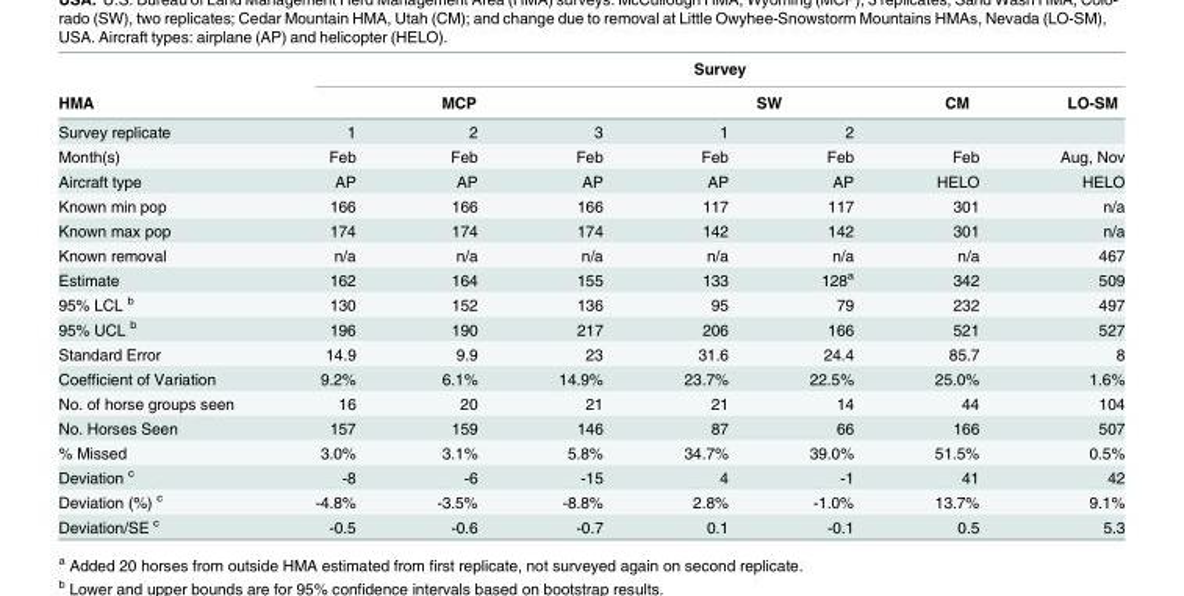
<table><thead><tr><td rowspan="3">HMA Survey replicate</td><td colspan="7">Survey</td></tr><tr><td colspan="3">MCP</td><td colspan="2">SW</td><td rowspan="2">CM</td><td rowspan="2">LO-SM</td></tr><tr><td>1</td><td>2</td><td>3</td><td>1</td><td>2</td></tr></thead><tbody><tr><td>Month(s)</td><td>Feb</td><td>Feb</td><td>Feb</td><td>Feb</td><td>Feb</td><td>Feb</td><td>Aug, Nov</td></tr><tr><td>Aircraft type</td><td>AP</td><td>AP</td><td>AP</td><td>AP</td><td>AP</td><td>HELO</td><td>HELO</td></tr><tr><td>Known min pop</td><td>166</td><td>166</td><td>166</td><td>117</td><td>117</td><td>301</td><td>n/a</td></tr><tr><td>Known max pop</td><td>174</td><td>174</td><td>174</td><td>142</td><td>142</td><td>301</td><td>n/a</td></tr><tr><td>Known removal</td><td>n/a</td><td>n/a</td><td>n/a</td><td>n/a</td><td>n/a</td><td>n/a</td><td>467</td></tr><tr><td>Estimate</td><td>162</td><td>164</td><td>155</td><td>133</td><td>128<sup>a</sup></td><td>342</td><td>509</td></tr><tr><td>95% LCL <sup>b</sup></td><td>130</td><td>152</td><td>136</td><td>95</td><td>79</td><td>232</td><td>497</td></tr><tr><td>95% UCL <sup>b</sup></td><td>196</td><td>190</td><td>217</td><td>206</td><td>166</td><td>521</td><td>527</td></tr><tr><td>Standard Error</td><td>14.9</td><td>9.9</td><td>23</td><td>31.6</td><td>24.4</td><td>85.7</td><td>8</td></tr><tr><td>Coefficient of Variation</td><td>9.2%</td><td>6.1%</td><td>14.9%</td><td>23.7%</td><td>22.5%</td><td>25.0%</td><td>1.6%</td></tr><tr><td>No. of horse groups seen</td><td>16</td><td>20</td><td>21</td><td>21</td><td>14</td><td>44</td><td>104</td></tr><tr><td>No. Horses Seen</td><td>157</td><td>159</td><td>146</td><td>87</td><td>66</td><td>166</td><td>507</td></tr><tr><td>% Missed</td><td>3.0%</td><td>3.1%</td><td>5.8%</td><td>34.7%</td><td>39.0%</td><td>51.5%</td><td>0.5%</td></tr><tr><td>Deviation <sup>c</sup></td><td>-8</td><td>-6</td><td>-15</td><td>4</td><td>-1</td><td>41</td><td>42</td></tr><tr><td>Deviation (%) <sup>c</sup></td><td>-4.8%</td><td>-3.5%</td><td>-8.8%</td><td>2.8%</td><td>-1.0%</td><td>13.7%</td><td>9.1%</td></tr><tr><td>Deviation/SE <sup>c</sup></td><td>-0.5</td><td>-0.6</td><td>-0.7</td><td>0.1</td><td>-0.1</td><td>0.5</td><td>5.3</td></tr></tbody></table>